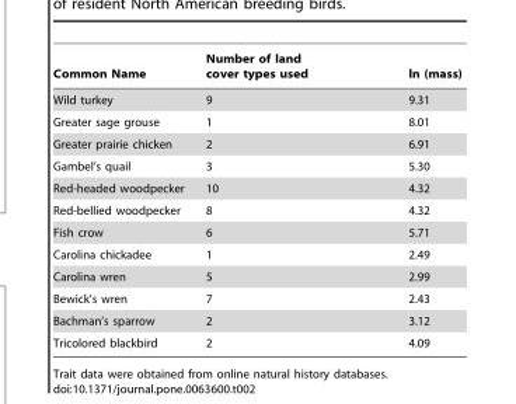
<table><thead><tr><td>Common Name</td><td>Number of land cover types used</td><td>ln (mass)</td></tr></thead><tbody><tr><td>Wild turkey</td><td>9</td><td>9.31</td></tr><tr><td>Greater sage grouse</td><td>1</td><td>8.01</td></tr><tr><td>Greater prairie chicken</td><td>2</td><td>6.91</td></tr><tr><td>Gambel’s quail</td><td>3</td><td>5.30</td></tr><tr><td>Red-headed woodpecker</td><td>10</td><td>4.32</td></tr><tr><td>Red-bellied woodpecker</td><td>8</td><td>4.32</td></tr><tr><td>Fish crow</td><td>6</td><td>5.71</td></tr><tr><td>Carolina chickadee</td><td>1</td><td>2.49</td></tr><tr><td>Carolina wren</td><td>5</td><td>2.99</td></tr><tr><td>Bewick’s wren</td><td>7</td><td>2.43</td></tr><tr><td>Bachman’s sparrow</td><td>2</td><td>3.12</td></tr><tr><td>Tricolored blackbird</td><td>2</td><td>4.09</td></tr></tbody></table>